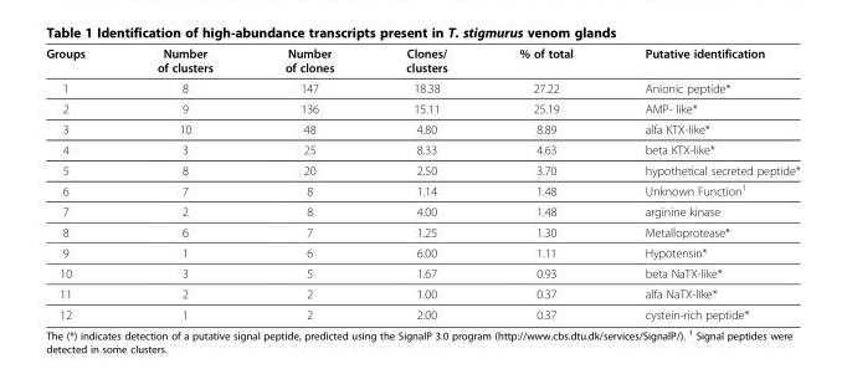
<table><thead><tr><td>Groups</td><td>Number of clusters</td><td>Number of clones</td><td>Clones/ clusters</td><td>% of total</td><td>Putative identification</td></tr></thead><tbody><tr><td>1</td><td>8</td><td>147</td><td>18.38</td><td>27.22</td><td>Anionic peptide*</td></tr><tr><td>2</td><td>9</td><td>136</td><td>15.11</td><td>25.19</td><td>AMP- like*</td></tr><tr><td>3</td><td>10</td><td>48</td><td>4.80</td><td>8.89</td><td>alfa KTX-like*</td></tr><tr><td>4</td><td>3</td><td>25</td><td>8.33</td><td>4.63</td><td>beta KTX-like*</td></tr><tr><td>5</td><td>8</td><td>20</td><td>2.50</td><td>3.70</td><td>hypothetical secreted peptide*</td></tr><tr><td>6</td><td>7</td><td>8</td><td>1.14</td><td>1.48</td><td>Unknown Function<sup>1</sup></td></tr><tr><td>7</td><td>2</td><td>8</td><td>4.00</td><td>1.48</td><td>arginine kinase</td></tr><tr><td>8</td><td>6</td><td>7</td><td>1.25</td><td>1.30</td><td>Metalloprotease*</td></tr><tr><td>9</td><td>1</td><td>6</td><td>6.00</td><td>1.11</td><td>Hypotensin*</td></tr><tr><td>10</td><td>3</td><td>5</td><td>1.67</td><td>0.93</td><td>beta NaTX-like*</td></tr><tr><td>11</td><td>2</td><td>2</td><td>1.00</td><td>0.37</td><td>alfa NaTX-like*</td></tr><tr><td>12</td><td>1</td><td>2</td><td>2.00</td><td>0.37</td><td>cystein-rich peptide*</td></tr></tbody></table>